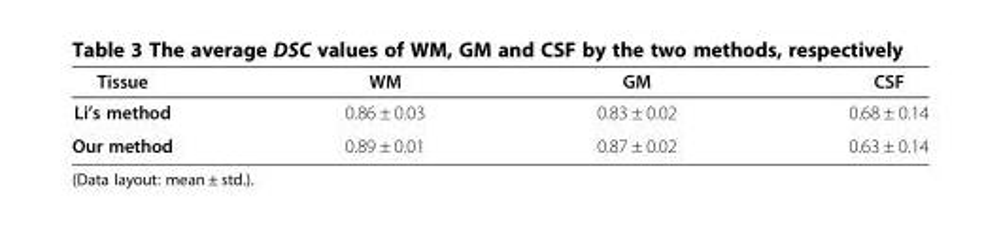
<table><thead><tr><td>Tissue</td><td>WM</td><td>GM</td><td>CSF</td></tr></thead><tbody><tr><td>Li’s method</td><td>0.86 ± 0.03</td><td>0.83 ± 0.02</td><td>0.68 ± 0.14</td></tr><tr><td>Our method</td><td>0.89 ± 0.01</td><td>0.87 ± 0.02</td><td>0.63 ± 0.14</td></tr></tbody></table>